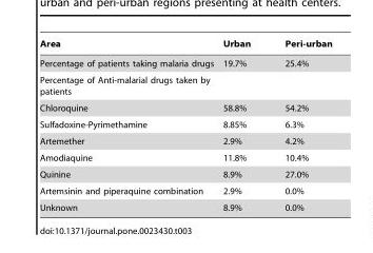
<table><thead><tr><td>Area</td><td>Urban</td><td>Peri-urban</td></tr></thead><tbody><tr><td>Percentage of patients taking malaria drugs</td><td>19.7%</td><td>25.4%</td></tr><tr><td colspan="3">Percentage of Anti-malarial drugs taken by patients</td></tr><tr><td>Chloroquine</td><td>58.8%</td><td>54.2%</td></tr><tr><td>Sulfadoxine-Pyrimethamine</td><td>8.85%</td><td>6.3%</td></tr><tr><td>Artemether</td><td>2.9%</td><td>4.2%</td></tr><tr><td>Amodiaquine</td><td>11.8%</td><td>10.4%</td></tr><tr><td>Quinine</td><td>8.9%</td><td>27.0%</td></tr><tr><td>Artemsinin and piperaquine combination</td><td>2.9%</td><td>0.0%</td></tr><tr><td>Unknown</td><td>8.9%</td><td>0.0%</td></tr></tbody></table>